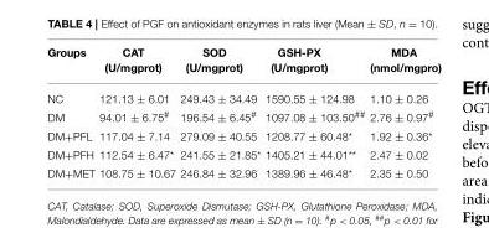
<table><thead><tr><td>Groups</td><td>CAT (U/mgprot)</td><td>SOD (U/mgprot)</td><td>GSH-PX (U/mgprot)</td><td>MDA (nmol/mgpro)</td></tr></thead><tbody><tr><td>NC</td><td>121.13 ± 6.01</td><td>249.43 ± 34.49</td><td>1590.55 ± 124.98</td><td>1.10 ± 0.26</td></tr><tr><td>DM</td><td>94.01 ± 6.75<sup>#</sup></td><td>196.54 ± 6.45<sup>#</sup></td><td>1097.08 ± 103.50<sup>##</sup></td><td>2.76 ± 0.97<sup>#</sup></td></tr><tr><td>DM+PFL</td><td>117.04 ± 7.14</td><td>279.09 ± 40.55</td><td>1208.77 ± 60.48*</td><td>1.92 ± 0.36*</td></tr><tr><td>DM+PFH</td><td>112.54 ± 6.47*</td><td>241.55 ± 21.85*</td><td>1405.21 ± 44.01**</td><td>2.47 ± 0.02</td></tr><tr><td>DM+MET</td><td>108.75 ± 10.67</td><td>246.84 ± 32.96</td><td>1389.96 ± 46.48*</td><td>2.35 ± 0.50</td></tr></tbody></table>